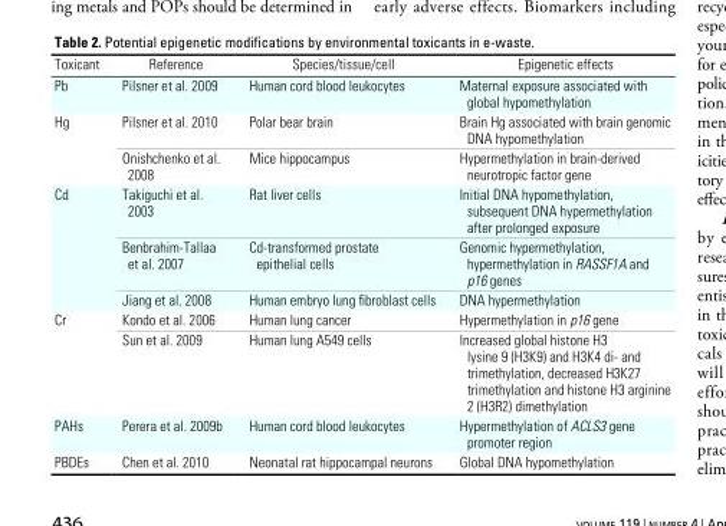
<table><thead><tr><td>Toxicant</td><td>Reference</td><td>Species/tissue/cell</td><td>Epigenetic effects</td></tr></thead><tbody><tr><td>Pb</td><td>Pilsner et al. 2009</td><td>Human cord blood leukocytes</td><td>Maternal exposure associated with global hypomethylation</td></tr><tr><td rowspan="2">Hg</td><td>Pilsner et al. 2010</td><td>Polar bear brain</td><td>Brain Hg associated with brain genomic DNA hypomethylation</td></tr><tr><td>Onishchenko et al. 2008</td><td>Mice hippocampus</td><td>Hypermethylation in brain-derived neurotropic factor gene</td></tr><tr><td rowspan="3">Cd</td><td>Takiguchi et al. 2003</td><td>Rat liver cells</td><td>Initial DNA hypomethylation, subsequent DNA hypermethylation after prolonged exposure</td></tr><tr><td>Benbrahim-Tallaa et al. 2007</td><td>Cd-transformed prostate epithelial cells</td><td>Genomic hypermethylation, hypermethylation in RASSF1A and p16 genes</td></tr><tr><td>Jiang et al. 2008</td><td>Human embryo lung fibroblast cells</td><td>DNA hypermethylation</td></tr><tr><td rowspan="2">Cr</td><td>Kondo et al. 2006</td><td>Human lung cancer</td><td>Hypermethylation in p16 gene</td></tr><tr><td>Sun et al. 2009</td><td>Human lung A549 cells</td><td>Increased global histone H3 lysine 9 (H3K9) and H3K4 di- and trimethylation, decreased H3K27 trimethylation and histone H3 arginine 2 (H3R2) dimethylation</td></tr><tr><td>PAHs</td><td>Perera et al. 2009b</td><td>Human cord blood leukocytes</td><td>Hypermethylation of ACLS3 gene promoter region</td></tr><tr><td>PBDEs</td><td>Chen et al. 2010</td><td>Neonatal rat hippocampal neurons</td><td>Global DNA hypomethylation</td></tr></tbody></table>